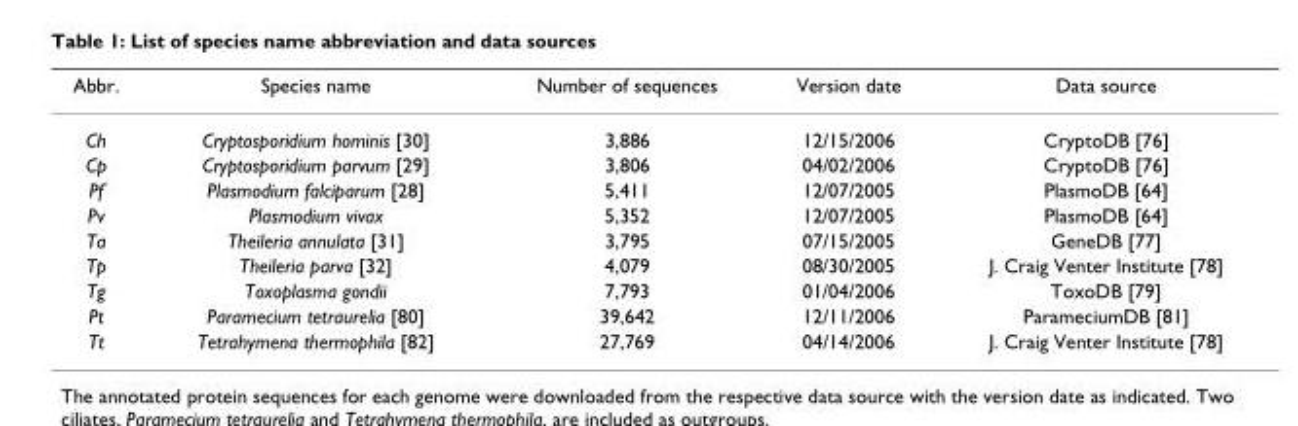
<table><thead><tr><td>Abbr.</td><td>Species name</td><td>Number of sequences</td><td>Version date</td><td>Data source</td></tr></thead><tbody><tr><td>Ch</td><td>Cryptosporidium hominis [30]</td><td>3,886</td><td>12/15/2006</td><td>CryptoDB [76]</td></tr><tr><td>Cp</td><td>Cryptosporidium parvum [29]</td><td>3,806</td><td>04/02/2006</td><td>CryptoDB [76]</td></tr><tr><td>Pf</td><td>Plasmodium falciparum [28]</td><td>5,411</td><td>12/07/2005</td><td>PlasmoDB [64]</td></tr><tr><td>Pv</td><td>Plasmodium vivax</td><td>5,352</td><td>12/07/2005</td><td>PlasmoDB [64]</td></tr><tr><td>Ta</td><td>Theileria annulata [31]</td><td>3,795</td><td>07/15/2005</td><td>GeneDB [77]</td></tr><tr><td>Tp</td><td>Theileria parva [32]</td><td>4,079</td><td>08/30/2005</td><td>J. Craig Venter Institute [78]</td></tr><tr><td>Tg</td><td>Toxoplasma gondii</td><td>7,793</td><td>01/04/2006</td><td>ToxoDB [79]</td></tr><tr><td>Pt</td><td>Paramecium tetraurelia [80]</td><td>39,642</td><td>12/11/2006</td><td>ParameciumDB [81]</td></tr><tr><td>Tt</td><td>Tetrahymena thermophila [82]</td><td>27,769</td><td>04/14/2006</td><td>J. Craig Venter Institute [78]</td></tr></tbody></table>